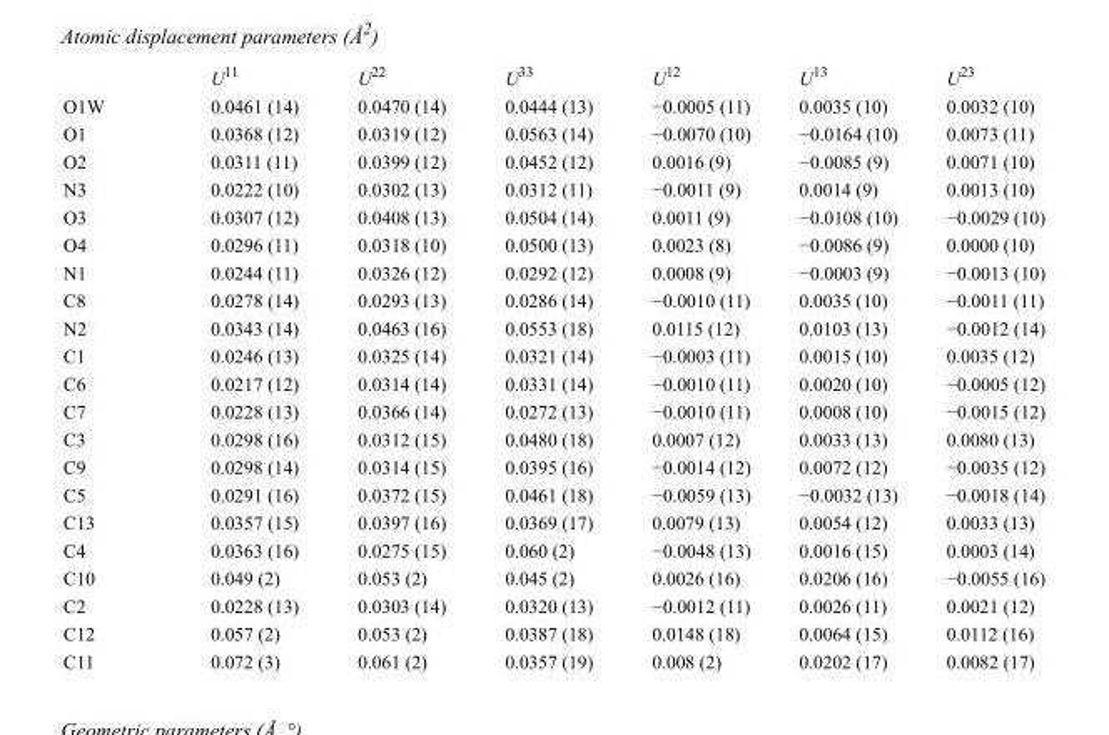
<table><thead><tr><td></td><td>U<sup>11</sup></td><td>U<sup>22</sup></td><td>U<sup>33</sup></td><td>U<sup>12</sup></td><td>U<sup>13</sup></td><td>U<sup>23</sup></td></tr></thead><tbody><tr><td>O1W</td><td>0.0461 (14)</td><td>0.0470 (14)</td><td>0.0444 (13)</td><td>−0.0005 (11)</td><td>0.0035 (10)</td><td>0.0032 (10)</td></tr><tr><td>O1</td><td>0.0368 (12)</td><td>0.0319 (12)</td><td>0.0563 (14)</td><td>−0.0070 (10)</td><td>−0.0164 (10)</td><td>0.0073 (11)</td></tr><tr><td>O2</td><td>0.0311 (11)</td><td>0.0399 (12)</td><td>0.0452 (12)</td><td>0.0016 (9)</td><td>−0.0085 (9)</td><td>0.0071 (10)</td></tr><tr><td>N3</td><td>0.0222 (10)</td><td>0.0302 (13)</td><td>0.0312 (11)</td><td>−0.0011 (9)</td><td>0.0014 (9)</td><td>0.0013 (10)</td></tr><tr><td>O3</td><td>0.0307 (12)</td><td>0.0408 (13)</td><td>0.0504 (14)</td><td>0.0011 (9)</td><td>−0.0108 (10)</td><td>−0.0029 (10)</td></tr><tr><td>O4</td><td>0.0296 (11)</td><td>0.0318 (10)</td><td>0.0500 (13)</td><td>0.0023 (8)</td><td>−0.0086 (9)</td><td>0.0000 (10)</td></tr><tr><td>N1</td><td>0.0244 (11)</td><td>0.0326 (12)</td><td>0.0292 (12)</td><td>0.0008 (9)</td><td>−0.0003 (9)</td><td>−0.0013 (10)</td></tr><tr><td>C8</td><td>0.0278 (14)</td><td>0.0293 (13)</td><td>0.0286 (14)</td><td>−0.0010 (11)</td><td>0.0035 (10)</td><td>−0.0011 (11)</td></tr><tr><td>N2</td><td>0.0343 (14)</td><td>0.0463 (16)</td><td>0.0553 (18)</td><td>0.0115 (12)</td><td>0.0103 (13)</td><td>−0.0012 (14)</td></tr><tr><td>C1</td><td>0.0246 (13)</td><td>0.0325 (14)</td><td>0.0321 (14)</td><td>−0.0003 (11)</td><td>0.0015 (10)</td><td>0.0035 (12)</td></tr><tr><td>C6</td><td>0.0217 (12)</td><td>0.0314 (14)</td><td>0.0331 (14)</td><td>−0.0010 (11)</td><td>0.0020 (10)</td><td>−0.0005 (12)</td></tr><tr><td>C7</td><td>0.0228 (13)</td><td>0.0366 (14)</td><td>0.0272 (13)</td><td>−0.0010 (11)</td><td>0.0008 (10)</td><td>−0.0015 (12)</td></tr><tr><td>C3</td><td>0.0298 (16)</td><td>0.0312 (15)</td><td>0.0480 (18)</td><td>0.0007 (12)</td><td>0.0033 (13)</td><td>0.0080 (13)</td></tr><tr><td>C9</td><td>0.0298 (14)</td><td>0.0314 (15)</td><td>0.0395 (16)</td><td>−0.0014 (12)</td><td>0.0072 (12)</td><td>−0.0035 (12)</td></tr><tr><td>C5</td><td>0.0291 (16)</td><td>0.0372 (15)</td><td>0.0461 (18)</td><td>−0.0059 (13)</td><td>−0.0032 (13)</td><td>−0.0018 (14)</td></tr><tr><td>C13</td><td>0.0357 (15)</td><td>0.0397 (16)</td><td>0.0369 (17)</td><td>0.0079 (13)</td><td>0.0054 (12)</td><td>0.0033 (13)</td></tr><tr><td>C4</td><td>0.0363 (16)</td><td>0.0275 (15)</td><td>0.060 (2)</td><td>−0.0048 (13)</td><td>0.0016 (15)</td><td>0.0003 (14)</td></tr><tr><td>C10</td><td>0.049 (2)</td><td>0.053 (2)</td><td>0.045 (2)</td><td>0.0026 (16)</td><td>0.0206 (16)</td><td>−0.0055 (16)</td></tr><tr><td>C2</td><td>0.0228 (13)</td><td>0.0303 (14)</td><td>0.0320 (13)</td><td>−0.0012 (11)</td><td>0.0026 (11)</td><td>0.0021 (12)</td></tr><tr><td>C12</td><td>0.057 (2)</td><td>0.053 (2)</td><td>0.0387 (18)</td><td>0.0148 (18)</td><td>0.0064 (15)</td><td>0.0112 (16)</td></tr><tr><td>C11</td><td>0.072 (3)</td><td>0.061 (2)</td><td>0.0357 (19)</td><td>0.008 (2)</td><td>0.0202 (17)</td><td>0.0082 (17)</td></tr></tbody></table>